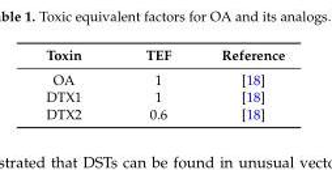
<table><thead><tr><td>Toxin</td><td>TEF</td><td>Reference</td></tr></thead><tbody><tr><td>OA</td><td>1</td><td>[18]</td></tr><tr><td>DTX1</td><td>1</td><td>[18]</td></tr><tr><td>DTX2</td><td>0.6</td><td>[18]</td></tr></tbody></table>